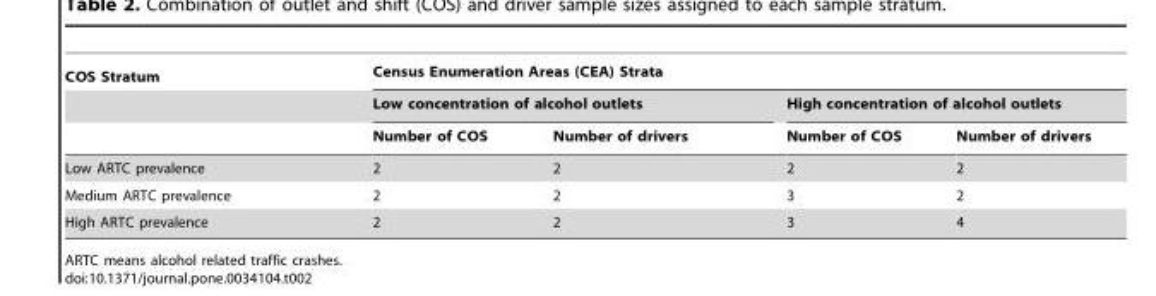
<table><thead><tr><td rowspan="3">COS Stratum</td><td colspan="4">Census Enumeration Areas (CEA) Strata</td></tr><tr><td colspan="2">Low concentration of alcohol outlets</td><td colspan="2">High concentration of alcohol outlets</td></tr><tr><td>Number of COS</td><td>Number of drivers</td><td>Number of COS</td><td>Number of drivers</td></tr></thead><tbody><tr><td>Low ARTC prevalence</td><td>2</td><td>2</td><td>2</td><td>2</td></tr><tr><td>Medium ARTC prevalence</td><td>2</td><td>2</td><td>3</td><td>2</td></tr><tr><td>High ARTC prevalence</td><td>2</td><td>2</td><td>3</td><td>4</td></tr></tbody></table>